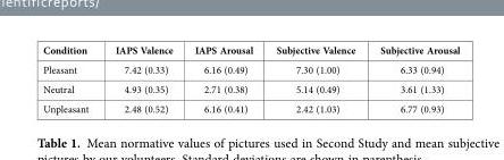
<table><tbody><tr><td>Condition</td><td>IAPS Valence</td><td>IAPS Arousal</td><td>Subjective Valence</td><td>Subjective Arousal</td></tr><tr><td>Pleasant</td><td>7.42 (0.33)</td><td>6.16 (0.49)</td><td>7.30 (1.00)</td><td>6.33 (0.94)</td></tr><tr><td>Neutral</td><td>4.93 (0.35)</td><td>2.71 (0.38)</td><td>5.14 (0.49)</td><td>3.61 (1.33)</td></tr><tr><td>Unpleasant</td><td>2.48 (0.52)</td><td>6.16 (0.41)</td><td>2.42 (1.03)</td><td>6.77 (0.93)</td></tr></tbody></table>